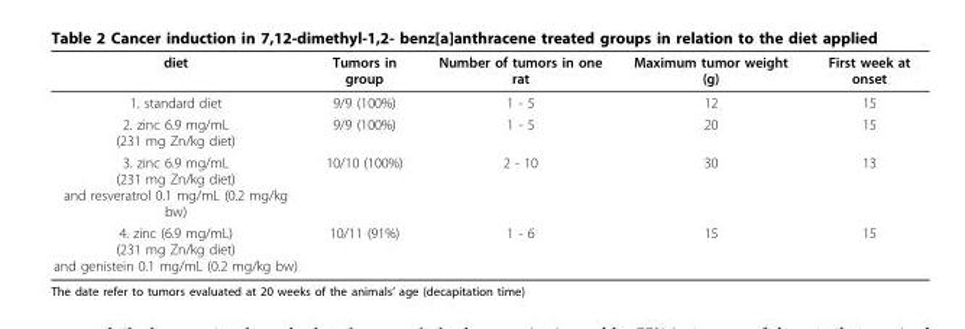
<table><thead><tr><td>diet</td><td>Tumors in group</td><td>Number of tumors in one rat</td><td>Maximum tumor weight (g)</td><td>First week at onset</td></tr></thead><tbody><tr><td>1. standard diet</td><td>9/9 (100%)</td><td>1 - 5</td><td>12</td><td>15</td></tr><tr><td>2. zinc 6.9 mg/mL (231 mg Zn/kg diet)</td><td>9/9 (100%)</td><td>1 - 5</td><td>20</td><td>15</td></tr><tr><td>3. zinc 6.9 mg/mL (231 mg Zn/kg diet) and resveratrol 0.1 mg/mL (0.2 mg/kg bw)</td><td>10/10 (100%)</td><td>2 - 10</td><td>30</td><td>13</td></tr><tr><td>4. zinc (6.9 mg/mL) (231 mg Zn/kg diet) and genistein 0.1 mg/mL (0.2 mg/kg bw)</td><td>10/11 (91%)</td><td>1 - 6</td><td>15</td><td>15</td></tr></tbody></table>